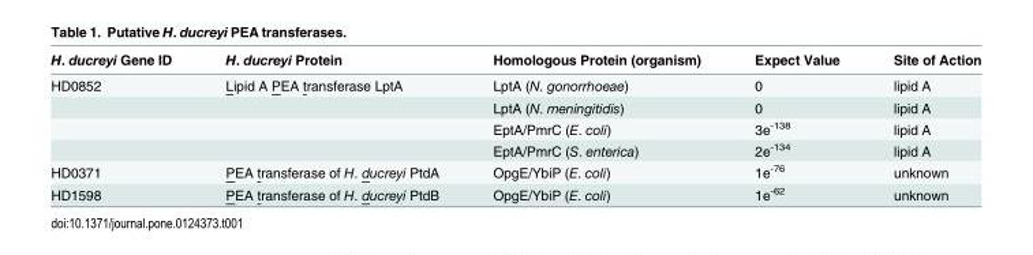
<table><thead><tr><td>H. ducreyi Gene ID</td><td>H. ducreyi Protein</td><td>Homologous Protein (organism)</td><td>Expect Value</td><td>Site of Action</td></tr></thead><tbody><tr><td rowspan="4">HD0852</td><td>Lipid A PEA transferase LptA</td><td>LptA (N. gonorrhoeae)</td><td>0</td><td>lipid A</td></tr><tr><td></td><td>LptA (N. meningitidis)</td><td>0</td><td>lipid A</td></tr><tr><td></td><td>EptA/PmrC (E. coli)</td><td>3e<sup>-138</sup></td><td>lipid A</td></tr><tr><td></td><td>EptA/PmrC (S. enterica)</td><td>2e<sup>-134</sup></td><td>lipid A</td></tr><tr><td>HD0371</td><td>PEA transferase of H. ducreyi PtdA</td><td>OpgE/YbiP (E. coli)</td><td>1e<sup>-76</sup></td><td>unknown</td></tr><tr><td>HD1598</td><td>PEA transferase of H. ducreyi PtdB</td><td>OpgE/YbiP (E. coli)</td><td>1e<sup>-62</sup></td><td>unknown</td></tr></tbody></table>